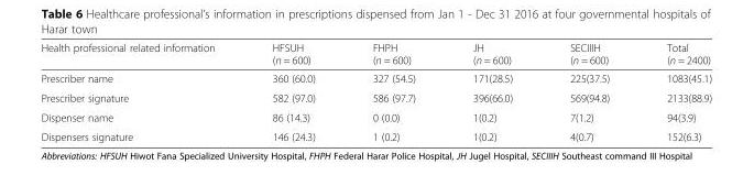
<table><thead><tr><td>Health professional related information</td><td>HFSUH (n = 600)</td><td>FHPH (n = 600)</td><td>JH (n = 600)</td><td>SECIIIH (n = 600)</td><td>Total (n = 2400)</td></tr></thead><tbody><tr><td>Prescriber name</td><td>360 (60.0)</td><td>327 (54.5)</td><td>171(28.5)</td><td>225(37.5)</td><td>1083(45.1)</td></tr><tr><td>Prescriber signature</td><td>582 (97.0)</td><td>586 (97.7)</td><td>396(66.0)</td><td>569(94.8)</td><td>2133(88.9)</td></tr><tr><td>Dispenser name</td><td>86 (14.3)</td><td>0 (0.0)</td><td>1(0.2)</td><td>7(1.2)</td><td>94(3.9)</td></tr><tr><td>Dispensers signature</td><td>146 (24.3)</td><td>1 (0.2)</td><td>1(0.2)</td><td>4(0.7)</td><td>152(6.3)</td></tr></tbody></table>